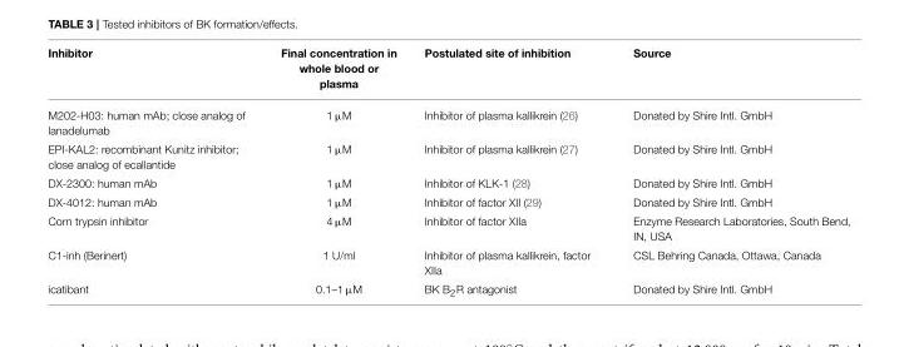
<table><thead><tr><td>Inhibitor</td><td>Final concentration in whole blood or plasma</td><td>Postulated site of inhibition</td><td>Source</td></tr></thead><tbody><tr><td>M202-H03: human mAb; close analog of lanadelumab</td><td>1 µM</td><td>Inhibitor of plasma kallikrein (26)</td><td>Donated by Shire Intl. GmbH</td></tr><tr><td>EPI-KAL2: recombinant Kunitz inhibitor; close analog of ecallantide</td><td>1 µM</td><td>Inhibitor of plasma kallikrein (27)</td><td>Donated by Shire Intl. GmbH</td></tr><tr><td>DX-2300: human mAb</td><td>1 µM</td><td>Inhibitor of KLK-1 (28)</td><td>Donated by Shire Intl. GmbH</td></tr><tr><td>DX-4012: human mAb</td><td>1 µM</td><td>Inhibitor of factor XII (29)</td><td>Donated by Shire Intl. GmbH</td></tr><tr><td>Corn trypsin inhibitor</td><td>4 µM</td><td>Inhibitor of factor XIIa</td><td>Enzyme Research Laboratories, South Bend, IN, USA</td></tr><tr><td>C1-inh (Berinert)</td><td>1 U/ml</td><td>Inhibitor of plasma kallikrein, factor XIIa</td><td>CSL Behring Canada, Ottawa, Canada</td></tr><tr><td>icatibant</td><td>0.1–1 µM</td><td>BK B<sub>2</sub>R antagonist</td><td>Donated by Shire Intl. GmbH</td></tr></tbody></table>